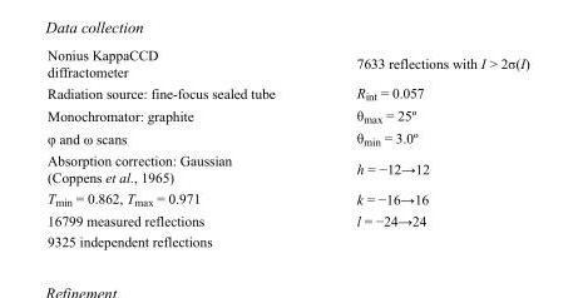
<table><tbody><tr><td>Nonius KappaCCD diffractometer</td><td>7633 reflections with I &gt; 2σ(I)</td></tr><tr><td>Radiation source: fine-focus sealed tube</td><td>R<sub>int</sub> = 0.057</td></tr><tr><td>Monochromator: graphite</td><td>θ<sub>max</sub> = 25º</td></tr><tr><td>φ and ω scans</td><td>θ<sub>min</sub> = 3.0º</td></tr><tr><td>Absorption correction: Gaussian (Coppens et al., 1965)</td><td>h = −12→12</td></tr><tr><td>T<sub>min</sub> = 0.862, T<sub>max</sub> = 0.971</td><td>k = −16→16</td></tr><tr><td>16799 measured reflections</td><td>l = −24→24</td></tr><tr><td>9325 independent reflections</td><td></td></tr></tbody></table>